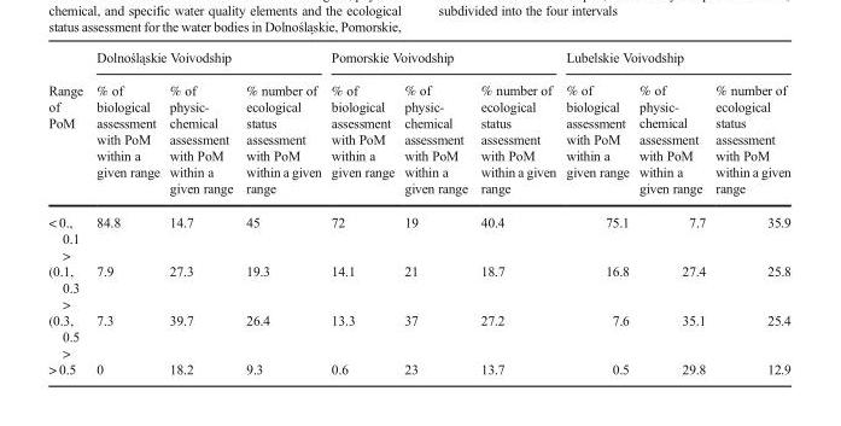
<table><thead><tr><td rowspan="2">Range of PoM</td><td colspan="3">Dolnośląskie Voivodship</td><td colspan="3">Pomorskie Voivodship</td><td colspan="3">Lubelskie Voivodship</td></tr><tr><td>% of biological assessment with PoM within a given range</td><td>% of physic- chemical assessment with PoM within a given range</td><td>% number of ecological status assessment with PoM within a given range</td><td>% of biological assessment with PoM within a given range</td><td>% of physic- chemical assessment with PoM within a given range</td><td>% number of ecological status assessment with PoM within a given range</td><td>% of biological assessment with PoM within a given range</td><td>% of physic- chemical assessment with PoM within a given range</td><td>% number of ecological status assessment with PoM within a given range</td></tr></thead><tbody><tr><td>&lt; 0., 0.1 &gt;</td><td>84.8</td><td>14.7</td><td>45</td><td>72</td><td>19</td><td>40.4</td><td>75.1</td><td>7.7</td><td>35.9</td></tr><tr><td>(0.1, 0.3 &gt;</td><td>7.9</td><td>27.3</td><td>19.3</td><td>14.1</td><td>21</td><td>18.7</td><td>16.8</td><td>27.4</td><td>25.8</td></tr><tr><td>(0.3, 0.5 &gt;</td><td>7.3</td><td>39.7</td><td>26.4</td><td>13.3</td><td>37</td><td>27.2</td><td>7.6</td><td>35.1</td><td>25.4</td></tr><tr><td>&gt; 0.5</td><td>0</td><td>18.2</td><td>9.3</td><td>0.6</td><td>23</td><td>13.7</td><td>0.5</td><td>29.8</td><td>12.9</td></tr></tbody></table>